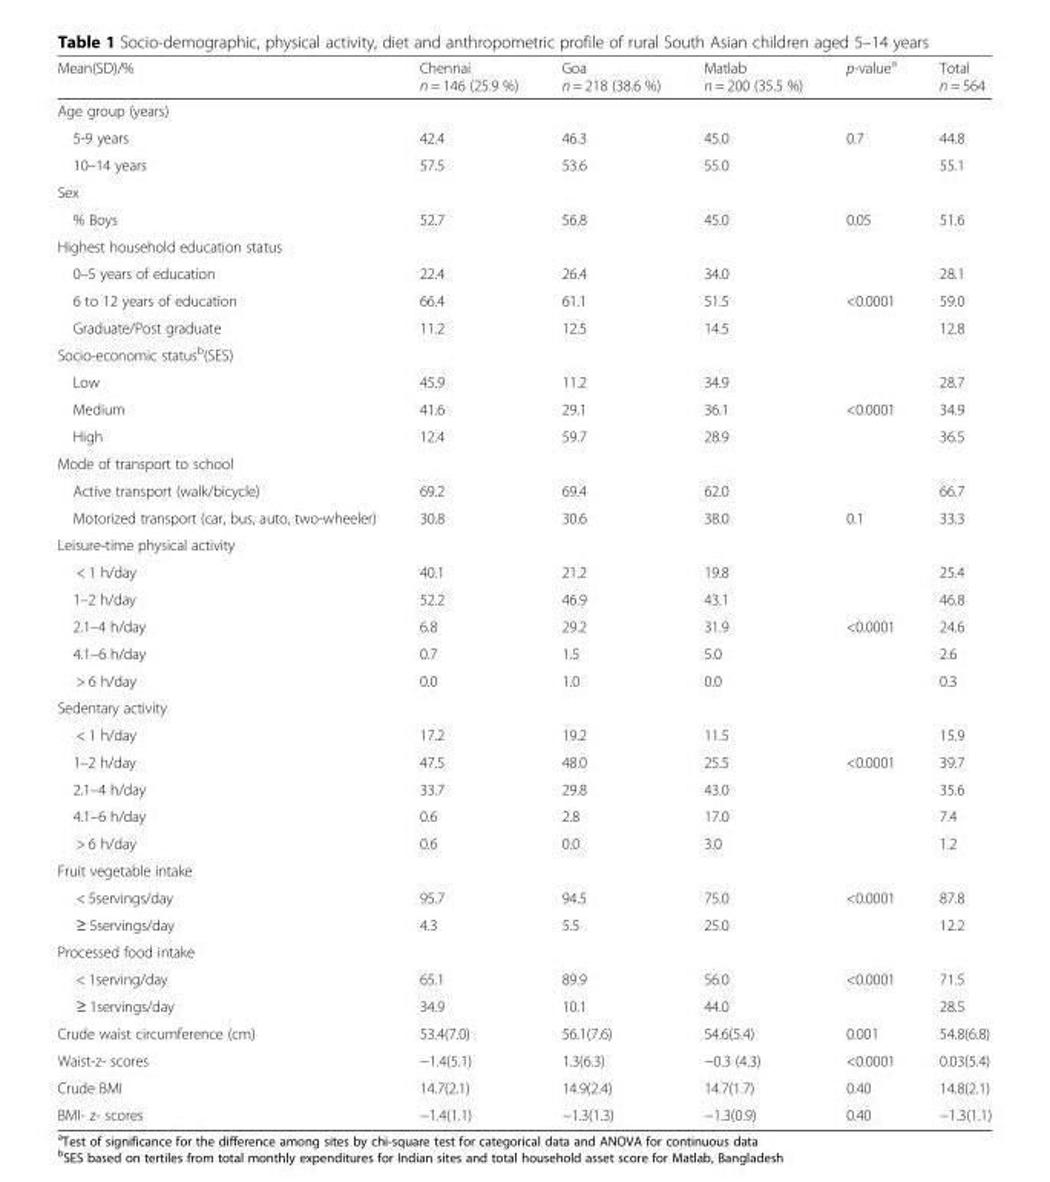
<table><thead><tr><td>Mean(SD)/%</td><td>Chennai n = 146 (25.9 %)</td><td>Goa n = 218 (38.6 %)</td><td>Matlab n = 200 (35.5 %)</td><td>p-value<sup>a</sup></td><td>Total n = 564</td></tr></thead><tbody><tr><td colspan="6">Age group (years)</td></tr><tr><td>5-9 years</td><td>42.4</td><td>46.3</td><td>45.0</td><td rowspan="2">0.7</td><td>44.8</td></tr><tr><td>10–14 years</td><td>57.5</td><td>53.6</td><td>55.0</td><td>55.1</td></tr><tr><td colspan="6">Sex</td></tr><tr><td>% Boys</td><td>52.7</td><td>56.8</td><td>45.0</td><td>0.05</td><td>51.6</td></tr><tr><td colspan="6">Highest household education status</td></tr><tr><td>0–5 years of education</td><td>22.4</td><td>26.4</td><td>34.0</td><td></td><td>28.1</td></tr><tr><td>6 to 12 years of education</td><td>66.4</td><td>61.1</td><td>51.5</td><td>&lt;0.0001</td><td>59.0</td></tr><tr><td>Graduate/Post graduate</td><td>11.2</td><td>12.5</td><td>14.5</td><td></td><td>12.8</td></tr><tr><td colspan="6">Socio-economic status<sup>b</sup>(SES)</td></tr><tr><td>Low</td><td>45.9</td><td>11.2</td><td>34.9</td><td></td><td>28.7</td></tr><tr><td>Medium</td><td>41.6</td><td>29.1</td><td>36.1</td><td>&lt;0.0001</td><td>34.9</td></tr><tr><td>High</td><td>12.4</td><td>59.7</td><td>28.9</td><td></td><td>36.5</td></tr><tr><td colspan="6">Mode of transport to school</td></tr><tr><td>Active transport (walk/bicycle)</td><td>69.2</td><td>69.4</td><td>62.0</td><td></td><td>66.7</td></tr><tr><td>Motorized transport (car, bus, auto, two-wheeler)</td><td>30.8</td><td>30.6</td><td>38.0</td><td>0.1</td><td>33.3</td></tr><tr><td colspan="6">Leisure-time physical activity</td></tr><tr><td>&lt; 1 h/day</td><td>40.1</td><td>21.2</td><td>19.8</td><td></td><td>25.4</td></tr><tr><td>1–2 h/day</td><td>52.2</td><td>46.9</td><td>43.1</td><td></td><td>46.8</td></tr><tr><td>2.1–4 h/day</td><td>6.8</td><td>29.2</td><td>31.9</td><td>&lt;0.0001</td><td>24.6</td></tr><tr><td>4.1–6 h/day</td><td>0.7</td><td>1.5</td><td>5.0</td><td></td><td>2.6</td></tr><tr><td>&gt; 6 h/day</td><td>0.0</td><td>1.0</td><td>0.0</td><td></td><td>0.3</td></tr><tr><td colspan="6">Sedentary activity</td></tr><tr><td>&lt; 1 h/day</td><td>17.2</td><td>19.2</td><td>11.5</td><td></td><td>15.9</td></tr><tr><td>1–2 h/day</td><td>47.5</td><td>48.0</td><td>25.5</td><td>&lt;0.0001</td><td>39.7</td></tr><tr><td>2.1–4 h/day</td><td>33.7</td><td>29.8</td><td>43.0</td><td></td><td>35.6</td></tr><tr><td>4.1–6 h/day</td><td>0.6</td><td>2.8</td><td>17.0</td><td></td><td>7.4</td></tr><tr><td>&gt; 6 h/day</td><td>0.6</td><td>0.0</td><td>3.0</td><td></td><td>1.2</td></tr><tr><td colspan="6">Fruit vegetable intake</td></tr><tr><td>&lt; 5servings/day</td><td>95.7</td><td>94.5</td><td>75.0</td><td rowspan="2">&lt;0.0001</td><td>87.8</td></tr><tr><td>≥ 5servings/day</td><td>4.3</td><td>5.5</td><td>25.0</td><td>12.2</td></tr><tr><td colspan="6">Processed food intake</td></tr><tr><td>&lt; 1serving/day</td><td>65.1</td><td>89.9</td><td>56.0</td><td rowspan="2">&lt;0.0001</td><td>71.5</td></tr><tr><td>≥ 1servings/day</td><td>34.9</td><td>10.1</td><td>44.0</td><td>28.5</td></tr><tr><td>Crude waist circumference (cm)</td><td>53.4(7.0)</td><td>56.1(7.6)</td><td>54.6(5.4)</td><td>0.001</td><td>54.8(6.8)</td></tr><tr><td>Waist-z- scores</td><td>−1.4(5.1)</td><td>1.3(6.3)</td><td>−0.3 (4.3)</td><td>&lt;0.0001</td><td>0.03(5.4)</td></tr><tr><td>Crude BMI</td><td>14.7(2.1)</td><td>14.9(2.4)</td><td>14.7(1.7)</td><td>0.40</td><td>14.8(2.1)</td></tr><tr><td>BMI- z- scores</td><td>−1.4(1.1)</td><td>−1.3(1.3)</td><td>−1.3(0.9)</td><td>0.40</td><td>−1.3(1.1)</td></tr></tbody></table>